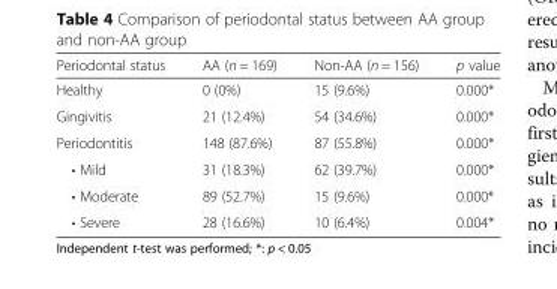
<table><thead><tr><td>Periodontal status</td><td>AA (n = 169)</td><td>Non-AA (n = 156)</td><td>p value</td></tr></thead><tbody><tr><td>Healthy</td><td>0 (0%)</td><td>15 (9.6%)</td><td>0.000*</td></tr><tr><td>Gingivitis</td><td>21 (12.4%)</td><td>54 (34.6%)</td><td>0.000*</td></tr><tr><td>Periodontitis</td><td>148 (87.6%)</td><td>87 (55.8%)</td><td>0.000*</td></tr><tr><td>• Mild</td><td>31 (18.3%)</td><td>62 (39.7%)</td><td>0.000*</td></tr><tr><td>• Moderate</td><td>89 (52.7%)</td><td>15 (9.6%)</td><td>0.000*</td></tr><tr><td>• Severe</td><td>28 (16.6%)</td><td>10 (6.4%)</td><td>0.004*</td></tr></tbody></table>